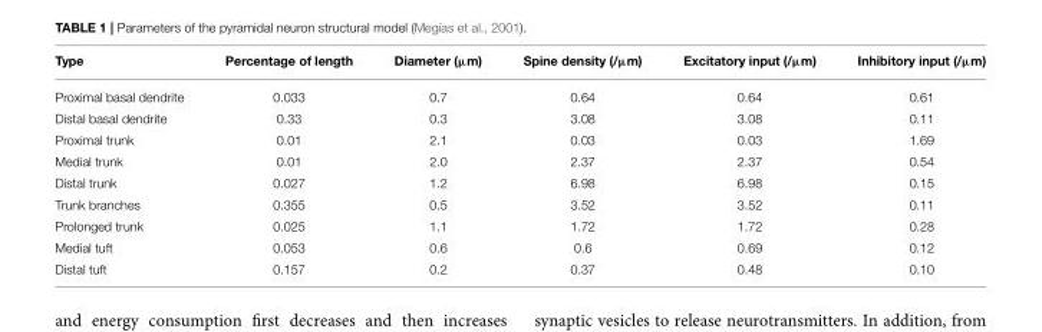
<table><thead><tr><td>Type</td><td>Percentage of length</td><td>Diameter (µm)</td><td>Spine density (/µm)</td><td>Excitatory input (/µm)</td><td>Inhibitory input (/µm)</td></tr></thead><tbody><tr><td>Proximal basal dendrite</td><td>0.033</td><td>0.7</td><td>0.64</td><td>0.64</td><td>0.61</td></tr><tr><td>Distal basal dendrite</td><td>0.33</td><td>0.3</td><td>3.08</td><td>3.08</td><td>0.11</td></tr><tr><td>Proximal trunk</td><td>0.01</td><td>2.1</td><td>0.03</td><td>0.03</td><td>1.69</td></tr><tr><td>Medial trunk</td><td>0.01</td><td>2.0</td><td>2.37</td><td>2.37</td><td>0.54</td></tr><tr><td>Distal trunk</td><td>0.027</td><td>1.2</td><td>6.98</td><td>6.98</td><td>0.15</td></tr><tr><td>Trunk branches</td><td>0.355</td><td>0.5</td><td>3.52</td><td>3.52</td><td>0.11</td></tr><tr><td>Prolonged trunk</td><td>0.025</td><td>1.1</td><td>1.72</td><td>1.72</td><td>0.28</td></tr><tr><td>Medial tuft</td><td>0.053</td><td>0.6</td><td>0.6</td><td>0.69</td><td>0.12</td></tr><tr><td>Distal tuft</td><td>0.157</td><td>0.2</td><td>0.37</td><td>0.48</td><td>0.10</td></tr></tbody></table>